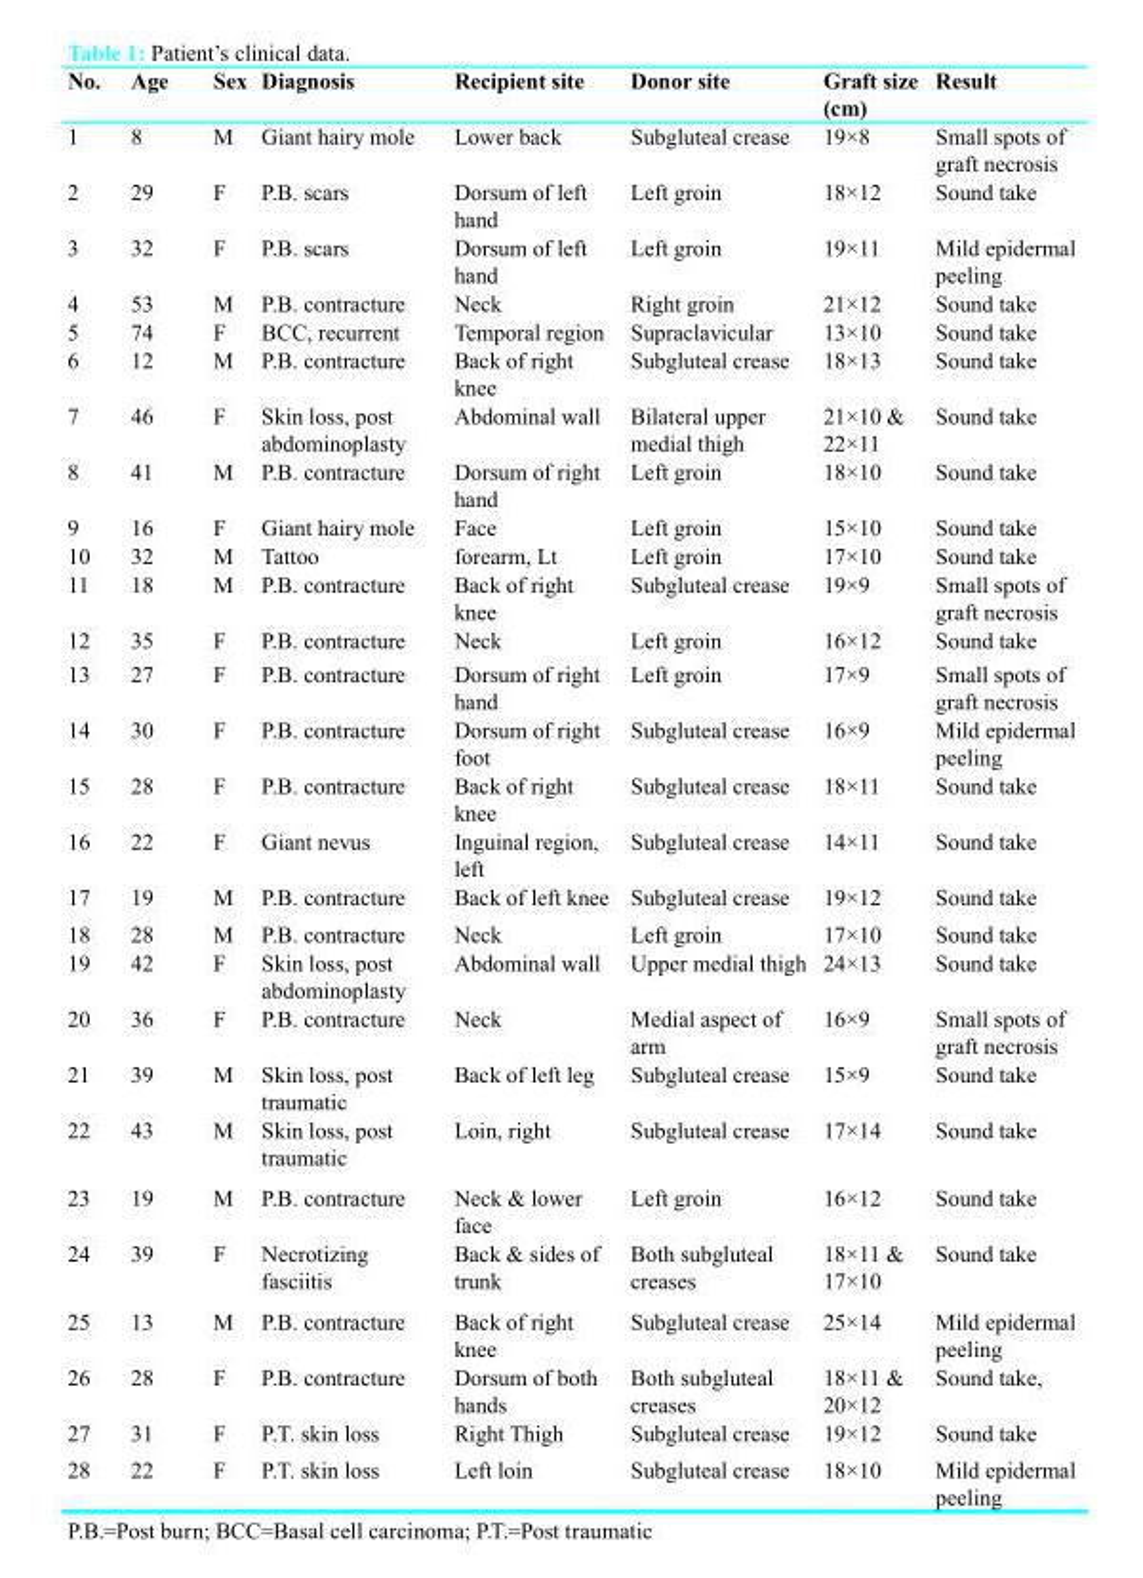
<table><thead><tr><td>No.</td><td>Age</td><td>Sex</td><td>Diagnosis</td><td>Recipient site</td><td>Donor site</td><td>Graft size (cm)</td><td>Result</td></tr></thead><tbody><tr><td>1</td><td>8</td><td>M</td><td>Giant hairy mole</td><td>Lower back</td><td>Subgluteal crease</td><td>19×8</td><td>Small spots of graft necrosis</td></tr><tr><td>2</td><td>29</td><td>F</td><td>P.B. scars</td><td>Dorsum of left hand</td><td>Left groin</td><td>18×12</td><td>Sound take</td></tr><tr><td>3</td><td>32</td><td>F</td><td>P.B. scars</td><td>Dorsum of left hand</td><td>Left groin</td><td>19×11</td><td>Mild epidermal peeling</td></tr><tr><td>4</td><td>53</td><td>M</td><td>P.B. contracture</td><td>Neck</td><td>Right groin</td><td>21×12</td><td>Sound take</td></tr><tr><td>5</td><td>74</td><td>F</td><td>BCC, recurrent</td><td>Temporal region</td><td>Supraclavicular</td><td>13×10</td><td>Sound take</td></tr><tr><td>6</td><td>12</td><td>M</td><td>P.B. contracture</td><td>Back of right knee</td><td>Subgluteal crease</td><td>18×13</td><td>Sound take</td></tr><tr><td>7</td><td>46</td><td>F</td><td>Skin loss, post abdominoplasty</td><td>Abdominal wall</td><td>Bilateral upper medial thigh</td><td>21×10 &amp; 22×11</td><td>Sound take</td></tr><tr><td>8</td><td>41</td><td>M</td><td>P.B. contracture</td><td>Dorsum of right hand</td><td>Left groin</td><td>18×10</td><td>Sound take</td></tr><tr><td>9</td><td>16</td><td>F</td><td>Giant hairy mole</td><td>Face</td><td>Left groin</td><td>15×10</td><td>Sound take</td></tr><tr><td>10</td><td>32</td><td>M</td><td>Tattoo</td><td>forearm, Lt</td><td>Left groin</td><td>17×10</td><td>Sound take</td></tr><tr><td>11</td><td>18</td><td>M</td><td>P.B. contracture</td><td>Back of right knee</td><td>Subgluteal crease</td><td>19×9</td><td>Small spots of graft necrosis</td></tr><tr><td>12</td><td>35</td><td>F</td><td>P.B. contracture</td><td>Neck</td><td>Left groin</td><td>16×12</td><td>Sound take</td></tr><tr><td>13</td><td>27</td><td>F</td><td>P.B. contracture</td><td>Dorsum of right hand</td><td>Left groin</td><td>17×9</td><td>Small spots of graft necrosis</td></tr><tr><td>14</td><td>30</td><td>F</td><td>P.B. contracture</td><td>Dorsum of right foot</td><td>Subgluteal crease</td><td>16×9</td><td>Mild epidermal peeling</td></tr><tr><td>15</td><td>28</td><td>F</td><td>P.B. contracture</td><td>Back of right knee</td><td>Subgluteal crease</td><td>18×11</td><td>Sound take</td></tr><tr><td>16</td><td>22</td><td>F</td><td>Giant nevus</td><td>Inguinal region, left</td><td>Subgluteal crease</td><td>14×11</td><td>Sound take</td></tr><tr><td>17</td><td>19</td><td>M</td><td>P.B. contracture</td><td>Back of left knee</td><td>Subgluteal crease</td><td>19×12</td><td>Sound take</td></tr><tr><td>18</td><td>28</td><td>M</td><td>P.B. contracture</td><td>Neck</td><td>Left groin</td><td>17×10</td><td>Sound take</td></tr><tr><td>19</td><td>42</td><td>F</td><td>Skin loss, post abdominoplasty</td><td>Abdominal wall</td><td>Upper medial thigh</td><td>24×13</td><td>Sound take</td></tr><tr><td>20</td><td>36</td><td>F</td><td>P.B. contracture</td><td>Neck</td><td>Medial aspect of arm</td><td>16×9</td><td>Small spots of graft necrosis</td></tr><tr><td>21</td><td>39</td><td>M</td><td>Skin loss, post traumatic</td><td>Back of left leg</td><td>Subgluteal crease</td><td>15×9</td><td>Sound take</td></tr><tr><td>22</td><td>43</td><td>M</td><td>Skin loss, post traumatic</td><td>Loin, right</td><td>Subgluteal crease</td><td>17×14</td><td>Sound take</td></tr><tr><td>23</td><td>19</td><td>M</td><td>P.B. contracture</td><td>Neck &amp; lower face</td><td>Left groin</td><td>16×12</td><td>Sound take</td></tr><tr><td>24</td><td>39</td><td>F</td><td>Necrotizing fasciitis</td><td>Back &amp; sides of trunk</td><td>Both subgluteal creases</td><td>18×11 &amp; 17×10</td><td>Sound take</td></tr><tr><td>25</td><td>13</td><td>M</td><td>P.B. contracture</td><td>Back of right knee</td><td>Subgluteal crease</td><td>25×14</td><td>Mild epidermal peeling</td></tr><tr><td>26</td><td>28</td><td>F</td><td>P.B. contracture</td><td>Dorsum of both hands</td><td>Both subgluteal creases</td><td>18×11 &amp; 20×12</td><td>Sound take,</td></tr><tr><td>27</td><td>31</td><td>F</td><td>P.T. skin loss</td><td>Right Thigh</td><td>Subgluteal crease</td><td>19×12</td><td>Sound take</td></tr><tr><td>28</td><td>22</td><td>F</td><td>P.T. skin loss</td><td>Left loin</td><td>Subgluteal crease</td><td>18×10</td><td>Mild epidermal peeling</td></tr></tbody></table>